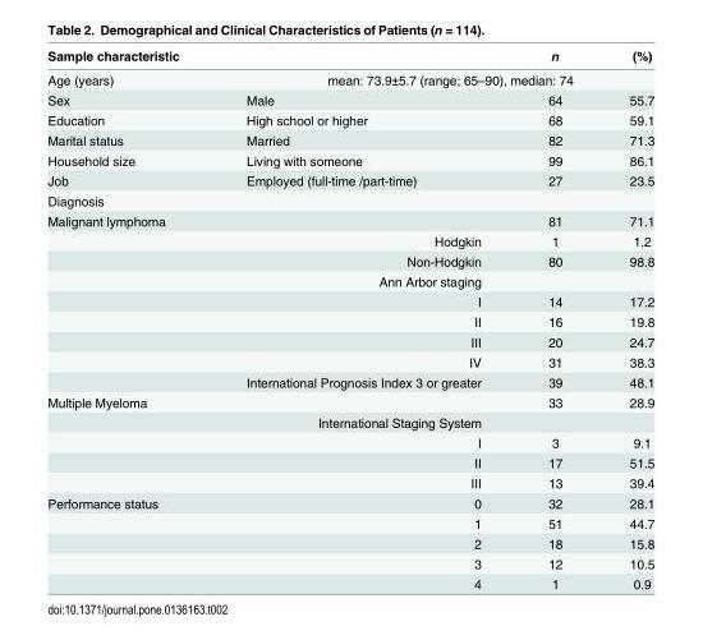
<table><thead><tr><td>Sample characteristic</td><td></td><td>n</td><td>(%)</td></tr></thead><tbody><tr><td>Age (years)</td><td colspan="3">mean: 73.9±5.7 (range; 65–90), median: 74</td></tr><tr><td>Sex</td><td>Male</td><td>64</td><td>55.7</td></tr><tr><td>Education</td><td>High school or higher</td><td>68</td><td>59.1</td></tr><tr><td>Marital status</td><td>Married</td><td>82</td><td>71.3</td></tr><tr><td>Household size</td><td>Living with someone</td><td>99</td><td>86.1</td></tr><tr><td>Job</td><td>Employed (full-time /part-time)</td><td>27</td><td>23.5</td></tr><tr><td colspan="4">Diagnosis</td></tr><tr><td rowspan="9">Malignant lymphoma</td><td></td><td>81</td><td>71.1</td></tr><tr><td>Hodgkin</td><td>1</td><td>1.2</td></tr><tr><td>Non-Hodgkin</td><td>80</td><td>98.8</td></tr><tr><td>Ann Arbor staging</td><td></td><td></td></tr><tr><td>I</td><td>14</td><td>17.2</td></tr><tr><td>II</td><td>16</td><td>19.8</td></tr><tr><td>III</td><td>20</td><td>24.7</td></tr><tr><td>IV</td><td>31</td><td>38.3</td></tr><tr><td>International Prognosis Index 3 or greater</td><td>39</td><td>48.1</td></tr><tr><td rowspan="5">Multiple Myeloma</td><td></td><td>33</td><td>28.9</td></tr><tr><td>International Staging System</td><td></td><td></td></tr><tr><td>I</td><td>3</td><td>9.1</td></tr><tr><td>II</td><td>17</td><td>51.5</td></tr><tr><td>III</td><td>13</td><td>39.4</td></tr><tr><td rowspan="5">Performance status</td><td>0</td><td>32</td><td>28.1</td></tr><tr><td>1</td><td>51</td><td>44.7</td></tr><tr><td>2</td><td>18</td><td>15.8</td></tr><tr><td>3</td><td>12</td><td>10.5</td></tr><tr><td>4</td><td>1</td><td>0.9</td></tr></tbody></table>